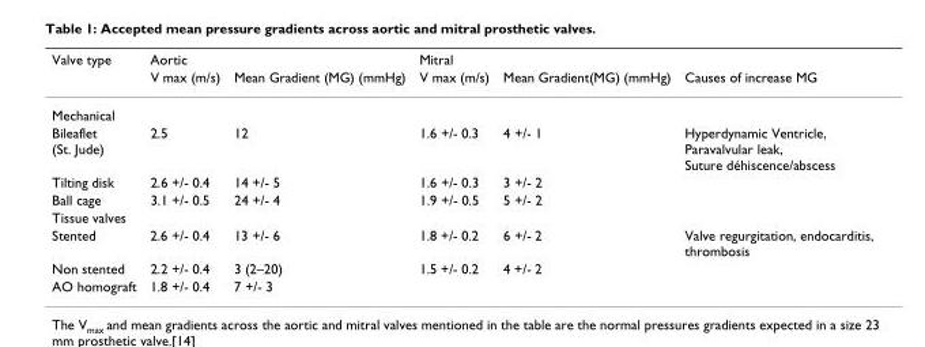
<table><thead><tr><td rowspan="2">Valve type</td><td rowspan="2">Aortic V max (m/s)</td><td rowspan="2">Mean Gradient (MG) (mmHg)</td><td rowspan="2">Mitral V max (m/s)</td><td rowspan="2">Mean Gradient(MG) (mmHg)</td><td rowspan="2">Causes of increase MG</td></tr><tr></tr></thead><tbody><tr><td colspan="6">Mechanical</td></tr><tr><td>Bileaflet (St. Jude)</td><td>2.5</td><td>12</td><td>1.6 +/- 0.3</td><td>4 +/- 1</td><td>Hyperdynamic Ventricle, Paravalvular leak, Suture déhiscence/abscess</td></tr><tr><td>Tilting disk</td><td>2.6 +/- 0.4</td><td>14 +/- 5</td><td>1.6 +/- 0.3</td><td>3 +/- 2</td><td></td></tr><tr><td>Ball cage</td><td>3.1 +/- 0.5</td><td>24 +/- 4</td><td>1.9 +/- 0.5</td><td>5 +/- 2</td><td></td></tr><tr><td colspan="6">Tissue valves</td></tr><tr><td>Stented</td><td>2.6 +/- 0.4</td><td>13 +/- 6</td><td>1.8 +/- 0.2</td><td>6 +/- 2</td><td>Valve regurgitation, endocarditis, thrombosis</td></tr><tr><td>Non stented</td><td>2.2 +/- 0.4</td><td>3 (2–20)</td><td>1.5 +/- 0.2</td><td>4 +/- 2</td><td></td></tr><tr><td>AO homograft</td><td>1.8 +/- 0.4</td><td>7 +/- 3</td><td></td><td></td><td></td></tr></tbody></table>